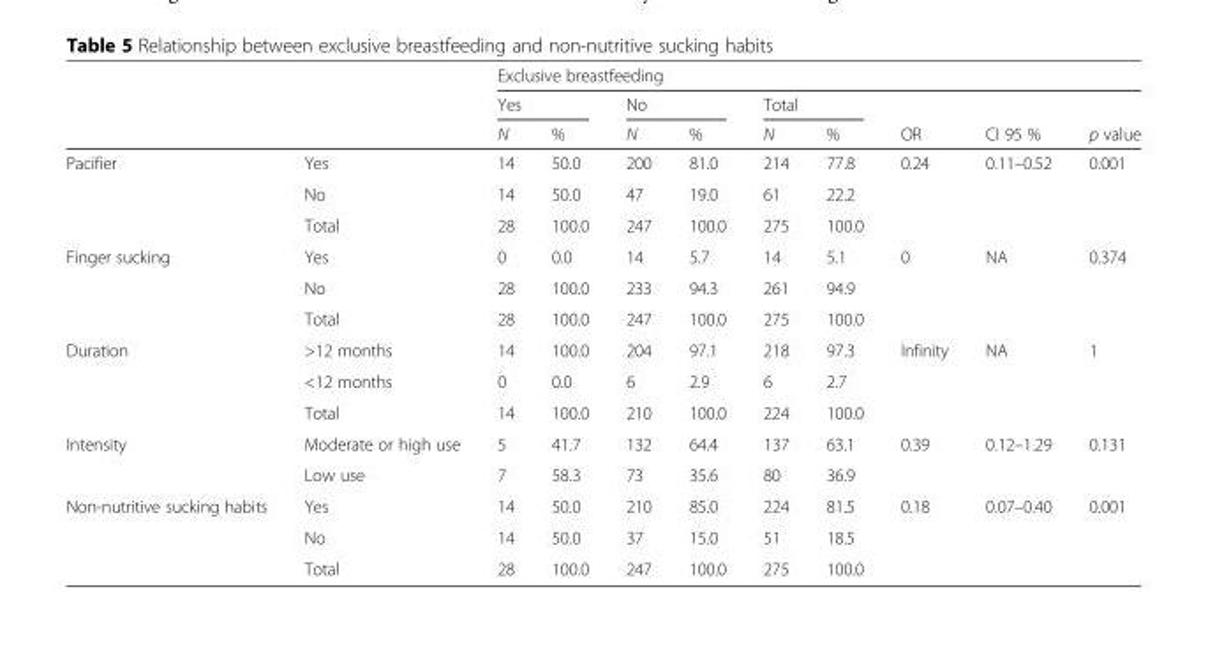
<table><thead><tr><td rowspan="3"></td><td rowspan="3"></td><td colspan="9">Exclusive breastfeeding</td></tr><tr><td colspan="2">Yes</td><td colspan="2">No</td><td colspan="2">Total</td><td rowspan="2">OR</td><td rowspan="2">CI 95 %</td><td rowspan="2">p value</td></tr><tr><td>N</td><td>%</td><td>N</td><td>%</td><td>N</td><td>%</td></tr></thead><tbody><tr><td rowspan="3">Pacifier</td><td>Yes</td><td>14</td><td>50.0</td><td>200</td><td>81.0</td><td>214</td><td>77.8</td><td>0.24</td><td>0.11–0.52</td><td>0.001</td></tr><tr><td>No</td><td>14</td><td>50.0</td><td>47</td><td>19.0</td><td>61</td><td>22.2</td><td></td><td></td><td></td></tr><tr><td>Total</td><td>28</td><td>100.0</td><td>247</td><td>100.0</td><td>275</td><td>100.0</td><td></td><td></td><td></td></tr><tr><td rowspan="3">Finger sucking</td><td>Yes</td><td>0</td><td>0.0</td><td>14</td><td>5.7</td><td>14</td><td>5.1</td><td>0</td><td>NA</td><td>0.374</td></tr><tr><td>No</td><td>28</td><td>100.0</td><td>233</td><td>94.3</td><td>261</td><td>94.9</td><td></td><td></td><td></td></tr><tr><td>Total</td><td>28</td><td>100.0</td><td>247</td><td>100.0</td><td>275</td><td>100.0</td><td></td><td></td><td></td></tr><tr><td rowspan="3">Duration</td><td>&gt;12 months</td><td>14</td><td>100.0</td><td>204</td><td>97.1</td><td>218</td><td>97.3</td><td>Infinity</td><td>NA</td><td>1</td></tr><tr><td>&lt;12 months</td><td>0</td><td>0.0</td><td>6</td><td>2.9</td><td>6</td><td>2.7</td><td></td><td></td><td></td></tr><tr><td>Total</td><td>14</td><td>100.0</td><td>210</td><td>100.0</td><td>224</td><td>100.0</td><td></td><td></td><td></td></tr><tr><td rowspan="2">Intensity</td><td>Moderate or high use</td><td>5</td><td>41.7</td><td>132</td><td>64.4</td><td>137</td><td>63.1</td><td>0.39</td><td>0.12–1.29</td><td>0.131</td></tr><tr><td>Low use</td><td>7</td><td>58.3</td><td>73</td><td>35.6</td><td>80</td><td>36.9</td><td></td><td></td><td></td></tr><tr><td rowspan="3">Non-nutritive sucking habits</td><td>Yes</td><td>14</td><td>50.0</td><td>210</td><td>85.0</td><td>224</td><td>81.5</td><td>0.18</td><td>0.07–0.40</td><td>0.001</td></tr><tr><td>No</td><td>14</td><td>50.0</td><td>37</td><td>15.0</td><td>51</td><td>18.5</td><td></td><td></td><td></td></tr><tr><td>Total</td><td>28</td><td>100.0</td><td>247</td><td>100.0</td><td>275</td><td>100.0</td><td></td><td></td><td></td></tr></tbody></table>